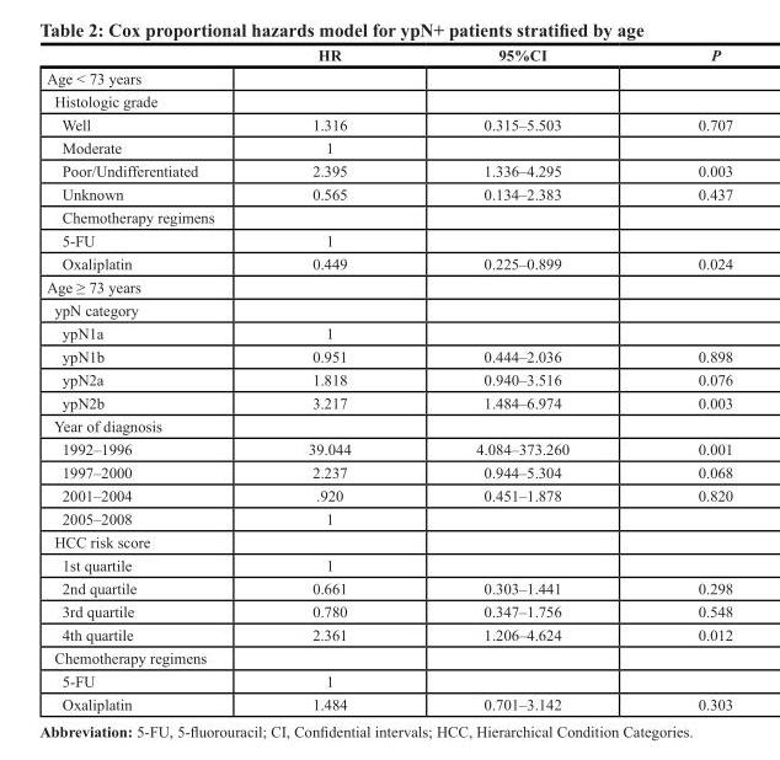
<table><thead><tr><td></td><td>HR</td><td>95%CI</td><td>P</td></tr></thead><tbody><tr><td colspan="4">Age &lt; 73 years</td></tr><tr><td colspan="4">Histologic grade</td></tr><tr><td>Well</td><td>1.316</td><td>0.315–5.503</td><td>0.707</td></tr><tr><td>Moderate</td><td>1</td><td></td><td></td></tr><tr><td>Poor/Undifferentiated</td><td>2.395</td><td>1.336–4.295</td><td>0.003</td></tr><tr><td>Unknown</td><td>0.565</td><td>0.134–2.383</td><td>0.437</td></tr><tr><td colspan="4">Chemotherapy regimens</td></tr><tr><td>5-FU</td><td>1</td><td></td><td></td></tr><tr><td>Oxaliplatin</td><td>0.449</td><td>0.225–0.899</td><td>0.024</td></tr><tr><td colspan="4">Age ≥ 73 years</td></tr><tr><td colspan="4">ypN category</td></tr><tr><td>ypN1a</td><td>1</td><td></td><td></td></tr><tr><td>ypN1b</td><td>0.951</td><td>0.444–2.036</td><td>0.898</td></tr><tr><td>ypN2a</td><td>1.818</td><td>0.940–3.516</td><td>0.076</td></tr><tr><td>ypN2b</td><td>3.217</td><td>1.484–6.974</td><td>0.003</td></tr><tr><td colspan="4">Year of diagnosis</td></tr><tr><td>1992–1996</td><td>39.044</td><td>4.084–373.260</td><td>0.001</td></tr><tr><td>1997–2000</td><td>2.237</td><td>0.944–5.304</td><td>0.068</td></tr><tr><td>2001–2004</td><td>.920</td><td>0.451–1.878</td><td>0.820</td></tr><tr><td>2005–2008</td><td>1</td><td></td><td></td></tr><tr><td colspan="4">HCC risk score</td></tr><tr><td>1st quartile</td><td>1</td><td></td><td></td></tr><tr><td>2nd quartile</td><td>0.661</td><td>0.303–1.441</td><td>0.298</td></tr><tr><td>3rd quartile</td><td>0.780</td><td>0.347–1.756</td><td>0.548</td></tr><tr><td>4th quartile</td><td>2.361</td><td>1.206–4.624</td><td>0.012</td></tr><tr><td colspan="4">Chemotherapy regimens</td></tr><tr><td>5-FU</td><td>1</td><td></td><td></td></tr><tr><td>Oxaliplatin</td><td>1.484</td><td>0.701–3.142</td><td>0.303</td></tr></tbody></table>